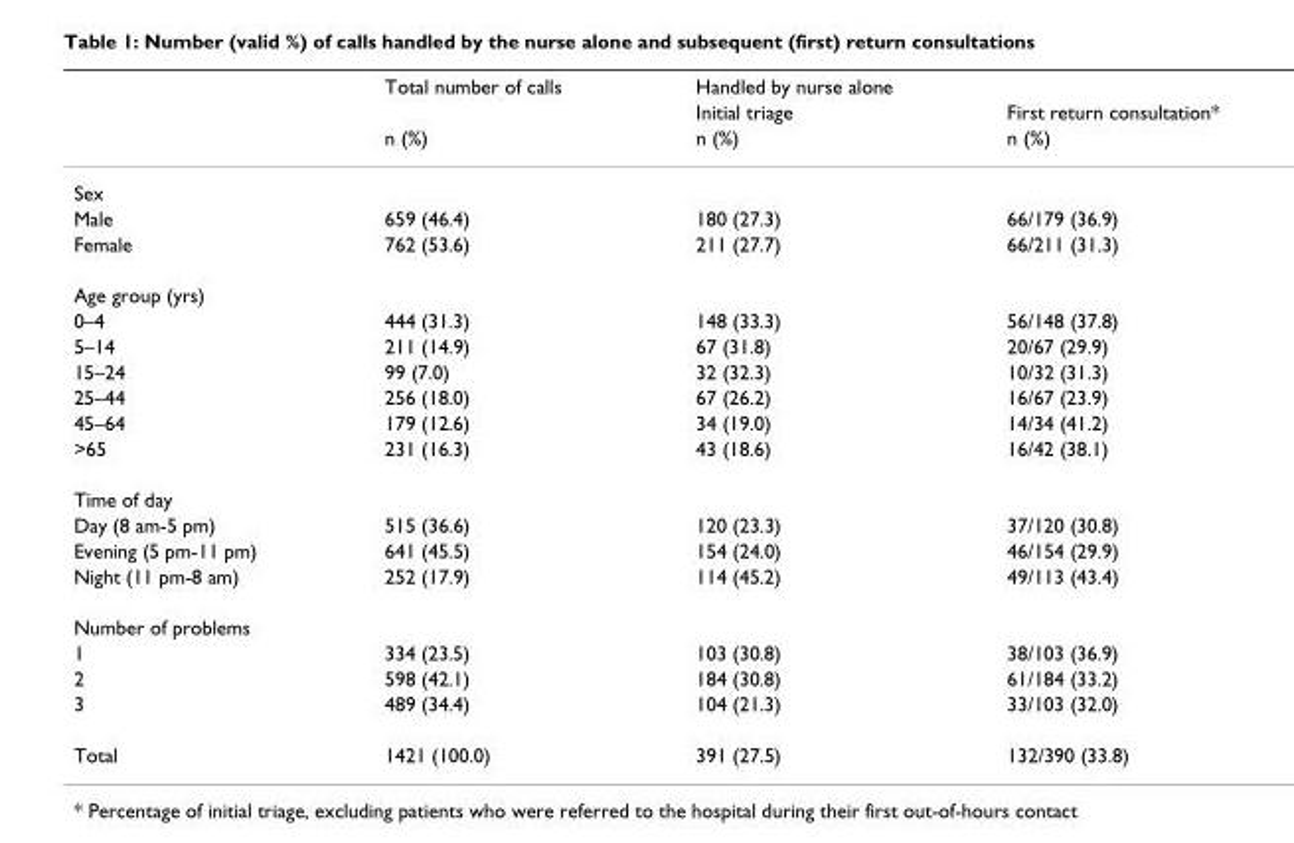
<table><thead><tr><td rowspan="3"></td><td rowspan="3">Total number of calls n (%)</td><td rowspan="3">Handled by nurse alone Initial triage n (%)</td><td rowspan="3">First return consultation* n (%)</td></tr><tr></tr><tr></tr></thead><tbody><tr><td colspan="4">Sex</td></tr><tr><td>Male</td><td>659 (46.4)</td><td>180 (27.3)</td><td>66/179 (36.9)</td></tr><tr><td>Female</td><td>762 (53.6)</td><td>211 (27.7)</td><td>66/211 (31.3)</td></tr><tr><td colspan="4">Age group (yrs)</td></tr><tr><td>0–4</td><td>444 (31.3)</td><td>148 (33.3)</td><td>56/148 (37.8)</td></tr><tr><td>5–14</td><td>211 (14.9)</td><td>67 (31.8)</td><td>20/67 (29.9)</td></tr><tr><td>15–24</td><td>99 (7.0)</td><td>32 (32.3)</td><td>10/32 (31.3)</td></tr><tr><td>25–44</td><td>256 (18.0)</td><td>67 (26.2)</td><td>16/67 (23.9)</td></tr><tr><td>45–64</td><td>179 (12.6)</td><td>34 (19.0)</td><td>14/34 (41.2)</td></tr><tr><td>&gt;65</td><td>231 (16.3)</td><td>43 (18.6)</td><td>16/42 (38.1)</td></tr><tr><td colspan="4">Time of day</td></tr><tr><td>Day (8 am-5 pm)</td><td>515 (36.6)</td><td>120 (23.3)</td><td>37/120 (30.8)</td></tr><tr><td>Evening (5 pm-11 pm)</td><td>641 (45.5)</td><td>154 (24.0)</td><td>46/154 (29.9)</td></tr><tr><td>Night (11 pm-8 am)</td><td>252 (17.9)</td><td>114 (45.2)</td><td>49/113 (43.4)</td></tr><tr><td colspan="4">Number of problems</td></tr><tr><td>1</td><td>334 (23.5)</td><td>103 (30.8)</td><td>38/103 (36.9)</td></tr><tr><td>2</td><td>598 (42.1)</td><td>184 (30.8)</td><td>61/184 (33.2)</td></tr><tr><td>3</td><td>489 (34.4)</td><td>104 (21.3)</td><td>33/103 (32.0)</td></tr><tr><td>Total</td><td>1421 (100.0)</td><td>391 (27.5)</td><td>132/390 (33.8)</td></tr></tbody></table>